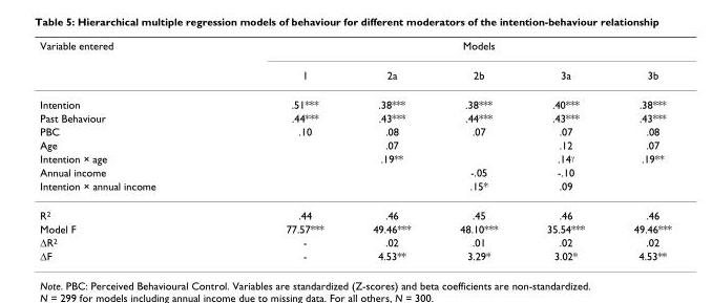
<table><thead><tr><td rowspan="2">Variable entered</td><td colspan="5">Models</td></tr><tr><td>1</td><td>2a</td><td>2b</td><td>3a</td><td>3b</td></tr></thead><tbody><tr><td>Intention</td><td>.51***</td><td>.38***</td><td>.38***</td><td>.40***</td><td>.38***</td></tr><tr><td>Past Behaviour</td><td>.44***</td><td>.43***</td><td>.44***</td><td>.43***</td><td>.43***</td></tr><tr><td>PBC</td><td>.10</td><td>.08</td><td>.07</td><td>.07</td><td>.08</td></tr><tr><td>Age</td><td></td><td>.07</td><td></td><td>.12</td><td>.07</td></tr><tr><td>Intention × age</td><td></td><td>.19**</td><td></td><td>.14<sup>γ</sup></td><td>.19**</td></tr><tr><td>Annual income</td><td></td><td></td><td>-.05</td><td>-.10</td><td></td></tr><tr><td>Intention × annual income</td><td></td><td></td><td>.15*</td><td>.09</td><td></td></tr><tr><td>R<sup>2</sup></td><td>.44</td><td>.46</td><td>.45</td><td>.46</td><td>.46</td></tr><tr><td>Model F</td><td>77.57***</td><td>49.46***</td><td>48.10***</td><td>35.54***</td><td>49.46***</td></tr><tr><td>∆R2</td><td>-</td><td>.02</td><td>.01</td><td>.02</td><td>.02</td></tr><tr><td>∆F</td><td>-</td><td>4.53**</td><td>3.29*</td><td>3.02*</td><td>4.53**</td></tr></tbody></table>